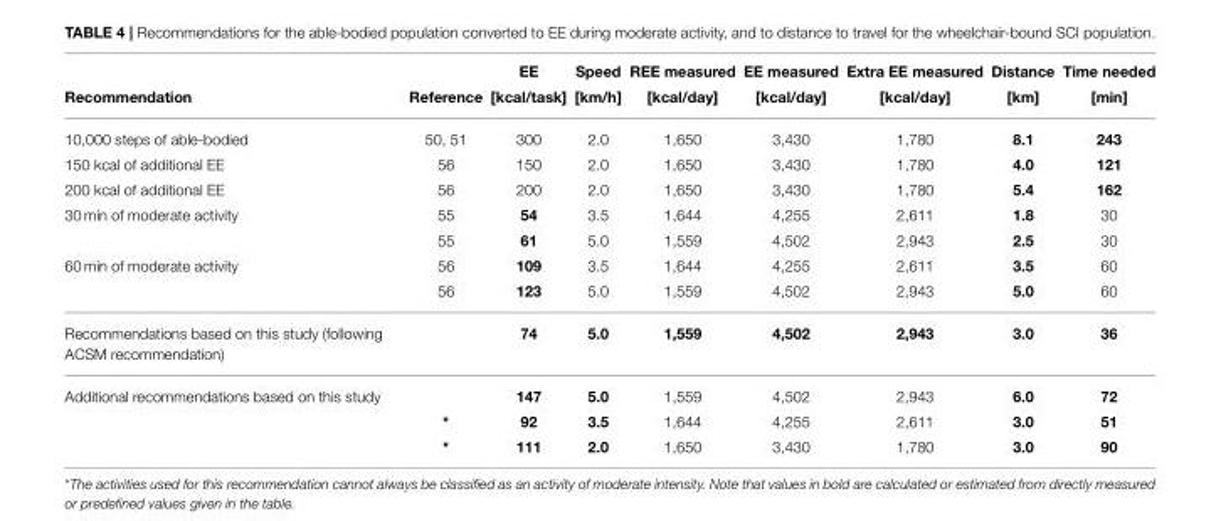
<table><thead><tr><td rowspan="2">Recommendation</td><td rowspan="2">Reference</td><td rowspan="2">EE [kcal/task]</td><td rowspan="2">Speed [km/h]</td><td rowspan="2">REE measured [kcal/day]</td><td rowspan="2">EE measured [kcal/day]</td><td rowspan="2">Extra EE measured [kcal/day]</td><td rowspan="2">Distance [km]</td><td rowspan="2">Time needed [min]</td></tr><tr></tr></thead><tbody><tr><td>10,000 steps of able-bodied</td><td>50, 51</td><td>300</td><td>2.0</td><td>1,650</td><td>3,430</td><td>1,780</td><td>8.1</td><td>243</td></tr><tr><td>150 kcal of additional EE</td><td>56</td><td>150</td><td>2.0</td><td>1,650</td><td>3,430</td><td>1,780</td><td>4.0</td><td>121</td></tr><tr><td>200 kcal of additional EE</td><td>56</td><td>200</td><td>2.0</td><td>1,650</td><td>3,430</td><td>1,780</td><td>5.4</td><td>162</td></tr><tr><td rowspan="2">30 min of moderate activity</td><td>55</td><td>54</td><td>3.5</td><td>1,644</td><td>4,255</td><td>2,611</td><td>1.8</td><td>30</td></tr><tr><td>55</td><td>61</td><td>5.0</td><td>1,559</td><td>4,502</td><td>2,943</td><td>2.5</td><td>30</td></tr><tr><td rowspan="2">60 min of moderate activity</td><td>56</td><td>109</td><td>3.5</td><td>1,644</td><td>4,255</td><td>2,611</td><td>3.5</td><td>60</td></tr><tr><td>56</td><td>123</td><td>5.0</td><td>1,559</td><td>4,502</td><td>2,943</td><td>5.0</td><td>60</td></tr><tr><td>Recommendations based on this study (following ACSM recommendation)</td><td></td><td>74</td><td>5.0</td><td>1,559</td><td>4,502</td><td>2,943</td><td>3.0</td><td>36</td></tr><tr><td rowspan="3">Additional recommendations based on this study</td><td></td><td>147</td><td>5.0</td><td>1,559</td><td>4,502</td><td>2,943</td><td>6.0</td><td>72</td></tr><tr><td>*</td><td>92</td><td>3.5</td><td>1,644</td><td>4,255</td><td>2,611</td><td>3.0</td><td>51</td></tr><tr><td>*</td><td>111</td><td>2.0</td><td>1,650</td><td>3,430</td><td>1,780</td><td>3.0</td><td>90</td></tr></tbody></table>